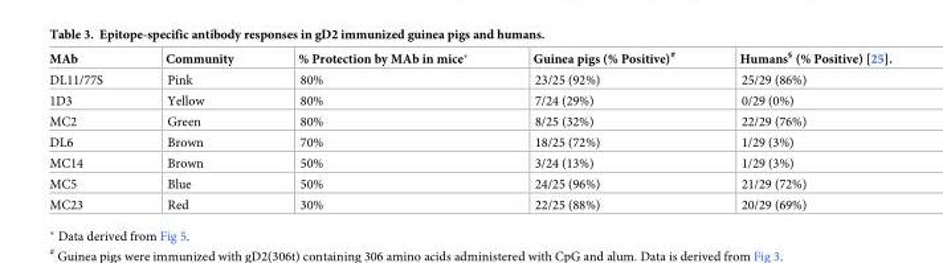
<table><thead><tr><td>MAb</td><td>Community</td><td>% Protection by MAb in mice*</td><td>Guinea pigs (% Positive)<sup>#</sup></td><td>Humans<sup>§</sup> (% Positive) [25].</td></tr></thead><tbody><tr><td>DL11/77S</td><td>Pink</td><td>80%</td><td>23/25 (92%)</td><td>25/29 (86%)</td></tr><tr><td>1D3</td><td>Yellow</td><td>80%</td><td>7/24 (29%)</td><td>0/29 (0%)</td></tr><tr><td>MC2</td><td>Green</td><td>80%</td><td>8/25 (32%)</td><td>22/29 (76%)</td></tr><tr><td>DL6</td><td>Brown</td><td>70%</td><td>18/25 (72%)</td><td>1/29 (3%)</td></tr><tr><td>MC14</td><td>Brown</td><td>50%</td><td>3/24 (13%)</td><td>1/29 (3%)</td></tr><tr><td>MC5</td><td>Blue</td><td>50%</td><td>24/25 (96%)</td><td>21/29 (72%)</td></tr><tr><td>MC23</td><td>Red</td><td>30%</td><td>22/25 (88%)</td><td>20/29 (69%)</td></tr></tbody></table>